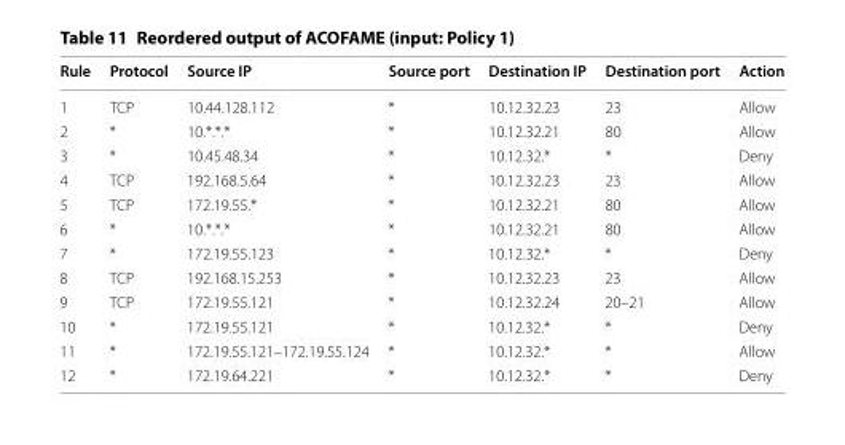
<table><thead><tr><td>Rule</td><td>Protocol</td><td>Source IP</td><td>Source port</td><td>Destination IP</td><td>Destination port</td><td>Action</td></tr></thead><tbody><tr><td>1</td><td>TCP</td><td>10.44.128.112</td><td>*</td><td>10.12.32.23</td><td>23</td><td>Allow</td></tr><tr><td>2</td><td>*</td><td>10.*.*.*</td><td>*</td><td>10.12.32.21</td><td>80</td><td>Allow</td></tr><tr><td>3</td><td>*</td><td>10.45.48.34</td><td>*</td><td>10.12.32.*</td><td>*</td><td>Deny</td></tr><tr><td>4</td><td>TCP</td><td>192.168.5.64</td><td>*</td><td>10.12.32.23</td><td>23</td><td>Allow</td></tr><tr><td>5</td><td>TCP</td><td>172.19.55.*</td><td>*</td><td>10.12.32.21</td><td>80</td><td>Allow</td></tr><tr><td>6</td><td>*</td><td>10.*.*.*</td><td>*</td><td>10.12.32.21</td><td>80</td><td>Allow</td></tr><tr><td>7</td><td>*</td><td>172.19.55.123</td><td>*</td><td>10.12.32.*</td><td>*</td><td>Deny</td></tr><tr><td>8</td><td>TCP</td><td>192.168.15.253</td><td>*</td><td>10.12.32.23</td><td>23</td><td>Allow</td></tr><tr><td>9</td><td>TCP</td><td>172.19.55.121</td><td>*</td><td>10.12.32.24</td><td>20–21</td><td>Allow</td></tr><tr><td>10</td><td>*</td><td>172.19.55.121</td><td>*</td><td>10.12.32.*</td><td>*</td><td>Deny</td></tr><tr><td>11</td><td>*</td><td>172.19.55.121–172.19.55.124</td><td>*</td><td>10.12.32.*</td><td>*</td><td>Allow</td></tr><tr><td>12</td><td>*</td><td>172.19.64.221</td><td>*</td><td>10.12.32.*</td><td>*</td><td>Deny</td></tr></tbody></table>